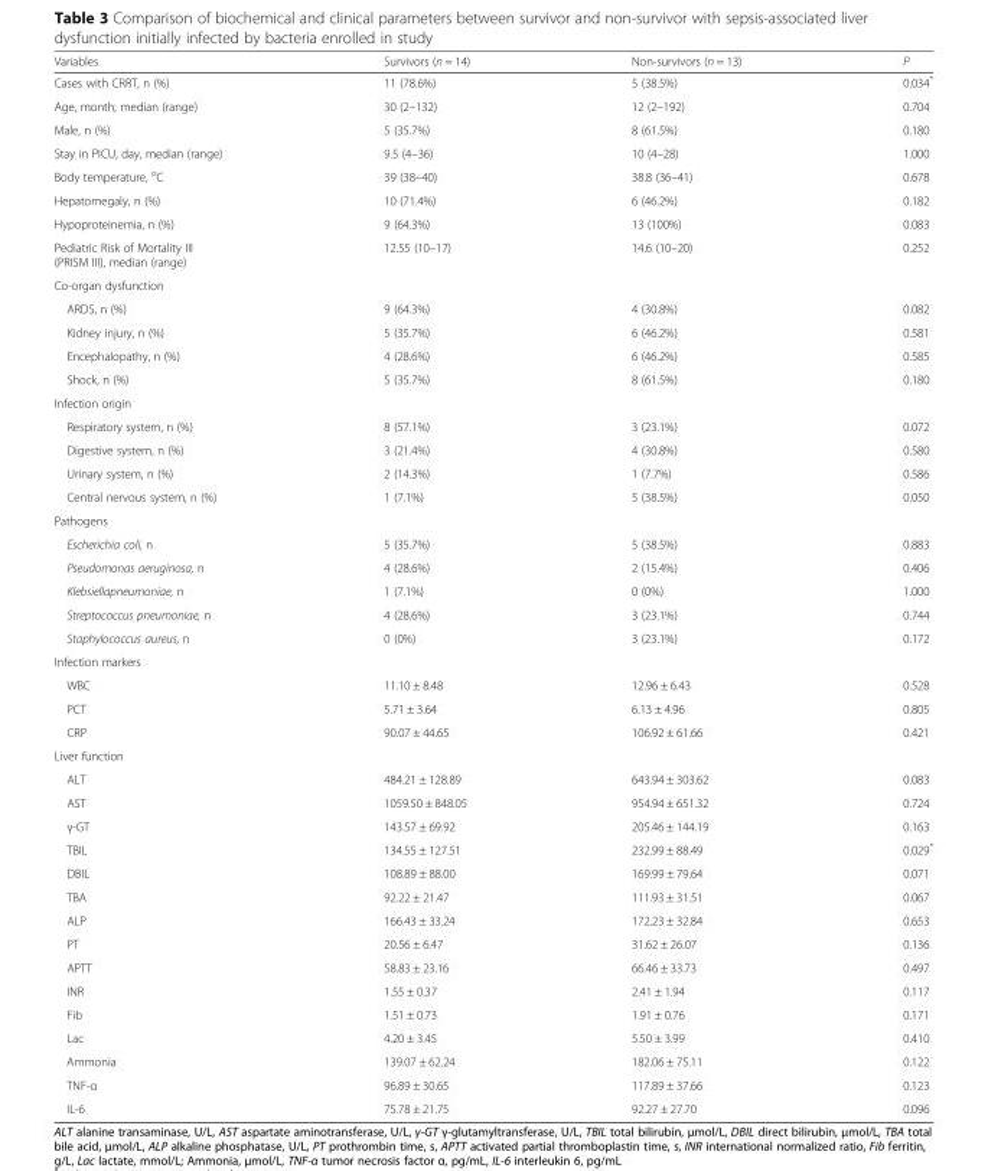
<table><thead><tr><td>Variables</td><td>Survivors (n = 14)</td><td>Non-survivors (n = 13)</td><td>P</td></tr></thead><tbody><tr><td>Cases with CRRT, n (%)</td><td>11 (78.6%)</td><td>5 (38.5%)</td><td>0.034*</td></tr><tr><td>Age, month, median (range)</td><td>30 (2–132)</td><td>12 (2–192)</td><td>0.704</td></tr><tr><td>Male, n (%)</td><td>5 (35.7%)</td><td>8 (61.5%)</td><td>0.180</td></tr><tr><td>Stay in PICU, day, median (range)</td><td>9.5 (4–36)</td><td>10 (4–28)</td><td>1.000</td></tr><tr><td>Body temperature, <sup>o</sup>C</td><td>39 (38–40)</td><td>38.8 (36–41)</td><td>0.678</td></tr><tr><td>Hepatomegaly, n (%)</td><td>10 (71.4%)</td><td>6 (46.2%)</td><td>0.182</td></tr><tr><td>Hypoproteinemia, n (%)</td><td>9 (64.3%)</td><td>13 (100%)</td><td>0.083</td></tr><tr><td>Pediatric Risk of Mortality III (PRISM III), median (range)</td><td>12.55 (10–17)</td><td>14.6 (10–20)</td><td>0.252</td></tr><tr><td colspan="4">Co-organ dysfunction</td></tr><tr><td>ARDS, n (%)</td><td>9 (64.3%)</td><td>4 (30.8%)</td><td>0.082</td></tr><tr><td>Kidney injury, n (%)</td><td>5 (35.7%)</td><td>6 (46.2%)</td><td>0.581</td></tr><tr><td>Encephalopathy, n (%)</td><td>4 (28.6%)</td><td>6 (46.2%)</td><td>0.585</td></tr><tr><td>Shock, n (%)</td><td>5 (35.7%)</td><td>8 (61.5%)</td><td>0.180</td></tr><tr><td colspan="4">Infection origin</td></tr><tr><td>Respiratory system, n (%)</td><td>8 (57.1%)</td><td>3 (23.1%)</td><td>0.072</td></tr><tr><td>Digestive system, n (%)</td><td>3 (21.4%)</td><td>4 (30.8%)</td><td>0.580</td></tr><tr><td>Urinary system, n (%)</td><td>2 (14.3%)</td><td>1 (7.7%)</td><td>0.586</td></tr><tr><td>Central nervous system, n (%)</td><td>1 (7.1%)</td><td>5 (38.5%)</td><td>0.050</td></tr><tr><td colspan="4">Pathogens</td></tr><tr><td>Escherichia coli, n</td><td>5 (35.7%)</td><td>5 (38.5%)</td><td>0.883</td></tr><tr><td>Pseudomonas aeruginosa, n</td><td>4 (28.6%)</td><td>2 (15.4%)</td><td>0.406</td></tr><tr><td>Klebsiellapneumoniae, n</td><td>1 (7.1%)</td><td>0 (0%)</td><td>1.000</td></tr><tr><td>Streptococcus pneumoniae, n</td><td>4 (28.6%)</td><td>3 (23.1%)</td><td>0.744</td></tr><tr><td>Staphylococcus aureus, n</td><td>0 (0%)</td><td>3 (23.1%)</td><td>0.172</td></tr><tr><td colspan="4">Infection markers</td></tr><tr><td>WBC</td><td>11.10 ± 8.48</td><td>12.96 ± 6.43</td><td>0.528</td></tr><tr><td>PCT</td><td>5.71 ± 3.64</td><td>6.13 ± 4.96</td><td>0.805</td></tr><tr><td>CRP</td><td>90.07 ± 44.65</td><td>106.92 ± 61.66</td><td>0.421</td></tr><tr><td colspan="4">Liver function</td></tr><tr><td>ALT</td><td>484.21 ± 128.89</td><td>643.94 ± 303.62</td><td>0.083</td></tr><tr><td>AST</td><td>1059.50 ± 848.05</td><td>954.94 ± 651.32</td><td>0.724</td></tr><tr><td>γ-GT</td><td>143.57 ± 69.92</td><td>205.46 ± 144.19</td><td>0.163</td></tr><tr><td>TBIL</td><td>134.55 ± 127.51</td><td>232.99 ± 88.49</td><td>0.029*</td></tr><tr><td>DBIL</td><td>108.89 ± 88.00</td><td>169.99 ± 79.64</td><td>0.071</td></tr><tr><td>TBA</td><td>92.22 ± 21.47</td><td>111.93 ± 31.51</td><td>0.067</td></tr><tr><td>ALP</td><td>166.43 ± 33.24</td><td>172.23 ± 32.84</td><td>0.653</td></tr><tr><td>PT</td><td>20.56 ± 6.47</td><td>31.62 ± 26.07</td><td>0.136</td></tr><tr><td>APTT</td><td>58.83 ± 23.16</td><td>66.46 ± 33.73</td><td>0.497</td></tr><tr><td>INR</td><td>1.55 ± 0.37</td><td>2.41 ± 1.94</td><td>0.117</td></tr><tr><td>Fib</td><td>1.51 ± 0.73</td><td>1.91 ± 0.76</td><td>0.171</td></tr><tr><td>Lac</td><td>4.20 ± 3.45</td><td>5.50 ± 3.99</td><td>0.410</td></tr><tr><td>Ammonia</td><td>139.07 ± 62.24</td><td>182.06 ± 75.11</td><td>0.122</td></tr><tr><td>TNF-α</td><td>96.89 ± 30.65</td><td>117.89 ± 37.66</td><td>0.123</td></tr><tr><td>IL-6</td><td>75.78 ± 21.75</td><td>92.27 ± 27.70</td><td>0.096</td></tr></tbody></table>